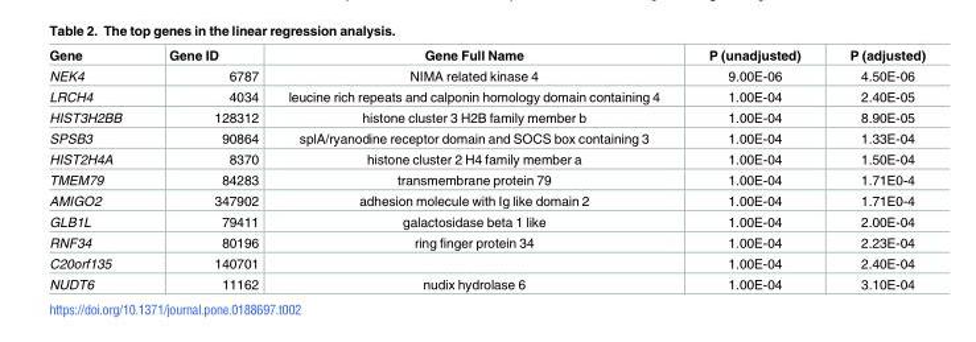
<table><thead><tr><td>Gene</td><td>Gene ID</td><td>Gene Full Name</td><td>P (unadjusted)</td><td>P (adjusted)</td></tr></thead><tbody><tr><td>NEK4</td><td>6787</td><td>NIMA related kinase 4</td><td>9.00E-06</td><td>4.50E-06</td></tr><tr><td>LRCH4</td><td>4034</td><td>leucine rich repeats and calponin homology domain containing 4</td><td>1.00E-04</td><td>2.40E-05</td></tr><tr><td>HIST3H2BB</td><td>128312</td><td>histone cluster 3 H2B family member b</td><td>1.00E-04</td><td>8.90E-05</td></tr><tr><td>SPSB3</td><td>90864</td><td>splA/ryanodine receptor domain and SOCS box containing 3</td><td>1.00E-04</td><td>1.33E-04</td></tr><tr><td>HIST2H4A</td><td>8370</td><td>histone cluster 2 H4 family member a</td><td>1.00E-04</td><td>1.50E-04</td></tr><tr><td>TMEM79</td><td>84283</td><td>transmembrane protein 79</td><td>1.00E-04</td><td>1.71E0-4</td></tr><tr><td>AMIGO2</td><td>347902</td><td>adhesion molecule with Ig like domain 2</td><td>1.00E-04</td><td>1.71E0-4</td></tr><tr><td>GLB1L</td><td>79411</td><td>galactosidase beta 1 like</td><td>1.00E-04</td><td>2.00E-04</td></tr><tr><td>RNF34</td><td>80196</td><td>ring finger protein 34</td><td>1.00E-04</td><td>2.23E-04</td></tr><tr><td>C20orf135</td><td>140701</td><td></td><td>1.00E-04</td><td>2.40E-04</td></tr><tr><td>NUDT6</td><td>11162</td><td>nudix hydrolase 6</td><td>1.00E-04</td><td>3.10E-04</td></tr></tbody></table>